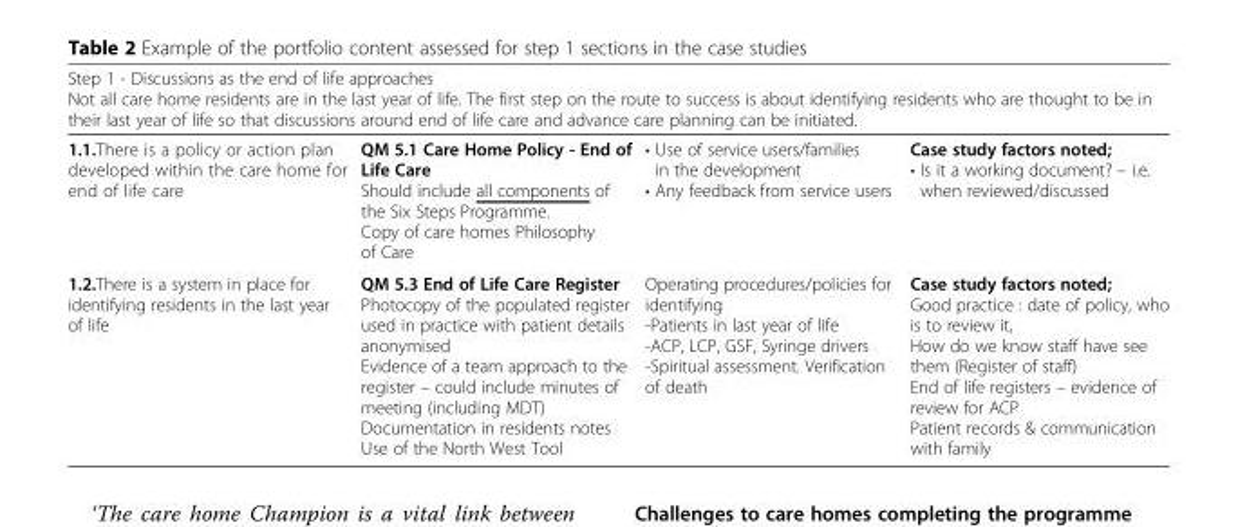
<table><thead><tr><td colspan="4">Step 1 - Discussions as the end of life approaches Not all care home residents are in the last year of life. The first step on the route to success is about identifying residents who are thought to be in their last year of life so that discussions around end of life care and advance care planning can be initiated.</td></tr><tr><td>1.1.There is a policy or action plan developed within the care home for end of life care</td><td>QM 5.1 Care Home Policy - End of Life Care Should include all components of the Six Steps Programme. Copy of care homes Philosophy of Care</td><td>• Use of service users/families in the development • Any feedback from service users</td><td>Case study factors noted; • Is it a working document? – i.e. when reviewed/discussed</td></tr></thead><tbody><tr><td>1.2.There is a system in place for identifying residents in the last year of life</td><td>QM 5.3 End of Life Care Register Photocopy of the populated register used in practice with patient details anonymised Evidence of a team approach to the register – could include minutes of meeting (including MDT) Documentation in residents notes Use of the North West Tool</td><td>Operating procedures/policies for identifying -Patients in last year of life -ACP, LCP, GSF, Syringe drivers -Spiritual assessment. Verification of death</td><td>Case study factors noted; Good practice : date of policy, who is to review it, How do we know staff have see them (Register of staff) End of life registers – evidence of review for ACP Patient records &amp; communication with family</td></tr></tbody></table>